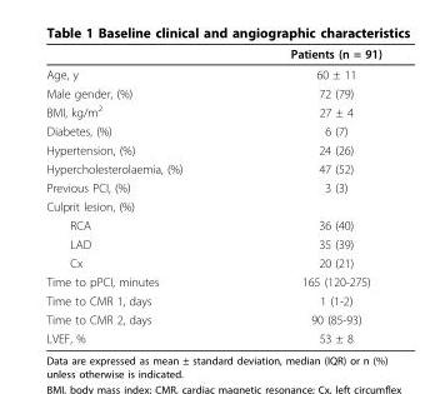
<table><thead><tr><td></td><td>Patients (n = 91)</td></tr></thead><tbody><tr><td>Age, y</td><td>60 ± 11</td></tr><tr><td>Male gender, (%)</td><td>72 (79)</td></tr><tr><td>BMI, kg/m<sup>2</sup></td><td>27 ± 4</td></tr><tr><td>Diabetes, (%)</td><td>6 (7)</td></tr><tr><td>Hypertension, (%)</td><td>24 (26)</td></tr><tr><td>Hypercholesterolaemia, (%)</td><td>47 (52)</td></tr><tr><td>Previous PCI, (%)</td><td>3 (3)</td></tr><tr><td colspan="2">Culprit lesion, (%)</td></tr><tr><td>RCA</td><td>36 (40)</td></tr><tr><td>LAD</td><td>35 (39)</td></tr><tr><td>Cx</td><td>20 (21)</td></tr><tr><td>Time to pPCI, minutes</td><td>165 (120-275)</td></tr><tr><td>Time to CMR 1, days</td><td>1 (1-2)</td></tr><tr><td>Time to CMR 2, days</td><td>90 (85-93)</td></tr><tr><td>LVEF, %</td><td>53 ± 8</td></tr></tbody></table>